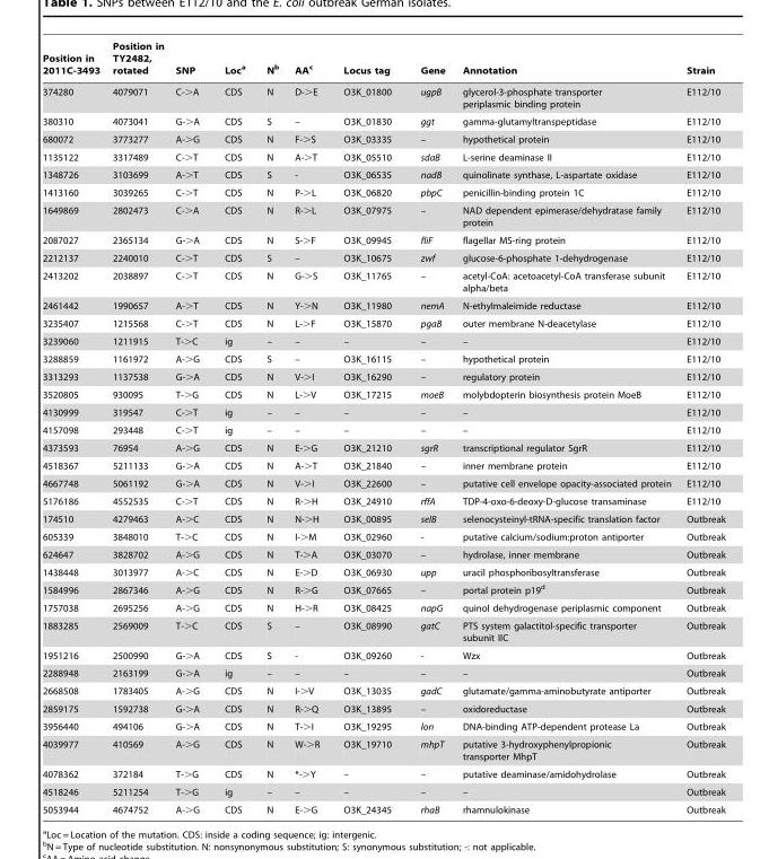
<table><thead><tr><td>Position in 2011C-3493</td><td>Position in TY2482, rotated</td><td>SNP</td><td>Loc<sup>a</sup></td><td>N<sup>b</sup></td><td>AA<sup>c</sup></td><td>Locus tag</td><td>Gene</td><td>Annotation</td><td>Strain</td></tr></thead><tbody><tr><td>374280</td><td>4079071</td><td>C-&gt;A</td><td>CDS</td><td>N</td><td>D-&gt;E</td><td>O3K_01800</td><td>ugpB</td><td>glycerol-3-phosphate transporter periplasmic binding protein</td><td>E112/10</td></tr><tr><td>380310</td><td>4073041</td><td>G-&gt;A</td><td>CDS</td><td>S</td><td>–</td><td>O3K_01830</td><td>ggt</td><td>gamma-glutamyltranspeptidase</td><td>E112/10</td></tr><tr><td>680072</td><td>3773277</td><td>A-&gt;G</td><td>CDS</td><td>N</td><td>F-&gt;S</td><td>O3K_03335</td><td>–</td><td>hypothetical protein</td><td>E112/10</td></tr><tr><td>1135122</td><td>3317489</td><td>C-&gt;T</td><td>CDS</td><td>N</td><td>A-&gt;T</td><td>O3K_05510</td><td>sdaB</td><td>L-serine deaminase II</td><td>E112/10</td></tr><tr><td>1348726</td><td>3103699</td><td>A-&gt;T</td><td>CDS</td><td>S</td><td>-</td><td>O3K_06535</td><td>nadB</td><td>quinolinate synthase, L-aspartate oxidase</td><td>E112/10</td></tr><tr><td>1413160</td><td>3039265</td><td>C-&gt;T</td><td>CDS</td><td>N</td><td>P-&gt;L</td><td>O3K_06820</td><td>pbpC</td><td>penicillin-binding protein 1C</td><td>E112/10</td></tr><tr><td>1649869</td><td>2802473</td><td>C-&gt;A</td><td>CDS</td><td>N</td><td>R-&gt;L</td><td>O3K_07975</td><td>–</td><td>NAD dependent epimerase/dehydratase family protein</td><td>E112/10</td></tr><tr><td>2087027</td><td>2365134</td><td>G-&gt;A</td><td>CDS</td><td>N</td><td>S-&gt;F</td><td>O3K_09945</td><td>fliF</td><td>flagellar MS-ring protein</td><td>E112/10</td></tr><tr><td>2212137</td><td>2240010</td><td>C-&gt;T</td><td>CDS</td><td>S</td><td>–</td><td>O3K_10675</td><td>zwf</td><td>glucose-6-phosphate 1-dehydrogenase</td><td>E112/10</td></tr><tr><td>2413202</td><td>2038897</td><td>C-&gt;T</td><td>CDS</td><td>N</td><td>G-&gt;S</td><td>O3K_11765</td><td>–</td><td>acetyl-CoA: acetoacetyl-CoA transferase subunit alpha/beta</td><td>E112/10</td></tr><tr><td>2461442</td><td>1990657</td><td>A-&gt;T</td><td>CDS</td><td>N</td><td>Y-&gt;N</td><td>O3K_11980</td><td>nemA</td><td>N-ethylmaleimide reductase</td><td>E112/10</td></tr><tr><td>3235407</td><td>1215568</td><td>C-&gt;T</td><td>CDS</td><td>N</td><td>L-&gt;F</td><td>O3K_15870</td><td>pgaB</td><td>outer membrane N-deacetylase</td><td>E112/10</td></tr><tr><td>3239060</td><td>1211915</td><td>T-&gt;C</td><td>ig</td><td>–</td><td>–</td><td>–</td><td>–</td><td>–</td><td>E112/10</td></tr><tr><td>3288859</td><td>1161972</td><td>A-&gt;G</td><td>CDS</td><td>S</td><td>–</td><td>O3K_16115</td><td>–</td><td>hypothetical protein</td><td>E112/10</td></tr><tr><td>3313293</td><td>1137538</td><td>G-&gt;A</td><td>CDS</td><td>N</td><td>V-&gt;I</td><td>O3K_16290</td><td>–</td><td>regulatory protein</td><td>E112/10</td></tr><tr><td>3520805</td><td>930095</td><td>T-&gt;G</td><td>CDS</td><td>N</td><td>L-&gt;V</td><td>O3K_17215</td><td>moeB</td><td>molybdopterin biosynthesis protein MoeB</td><td>E112/10</td></tr><tr><td>4130999</td><td>319547</td><td>C-&gt;T</td><td>ig</td><td>–</td><td>–</td><td>–</td><td>–</td><td>–</td><td>E112/10</td></tr><tr><td>4157098</td><td>293448</td><td>C-&gt;T</td><td>ig</td><td>–</td><td>–</td><td>–</td><td>–</td><td>–</td><td>E112/10</td></tr><tr><td>4373593</td><td>76954</td><td>A-&gt;G</td><td>CDS</td><td>N</td><td>E-&gt;G</td><td>O3K_21210</td><td>sgrR</td><td>transcriptional regulator SgrR</td><td>E112/10</td></tr><tr><td>4518367</td><td>5211133</td><td>G-&gt;A</td><td>CDS</td><td>N</td><td>A-&gt;T</td><td>O3K_21840</td><td>–</td><td>inner membrane protein</td><td>E112/10</td></tr><tr><td>4667748</td><td>5061192</td><td>G-&gt;A</td><td>CDS</td><td>N</td><td>V-&gt;I</td><td>O3K_22600</td><td>–</td><td>putative cell envelope opacity-associated protein</td><td>E112/10</td></tr><tr><td>5176186</td><td>4552535</td><td>C-&gt;T</td><td>CDS</td><td>N</td><td>R-&gt;H</td><td>O3K_24910</td><td>rffA</td><td>TDP-4-oxo-6-deoxy-D-glucose transaminase</td><td>E112/10</td></tr><tr><td>174510</td><td>4279463</td><td>A-&gt;C</td><td>CDS</td><td>N</td><td>N-&gt;H</td><td>O3K_00895</td><td>selB</td><td>selenocysteinyl-tRNA-specific translation factor</td><td>Outbreak</td></tr><tr><td>605339</td><td>3848010</td><td>T-&gt;C</td><td>CDS</td><td>N</td><td>I-&gt;M</td><td>O3K_02960</td><td>-</td><td>putative calcium/sodium:proton antiporter</td><td>Outbreak</td></tr><tr><td>624647</td><td>3828702</td><td>A-&gt;G</td><td>CDS</td><td>N</td><td>T-&gt;A</td><td>O3K_03070</td><td>–</td><td>hydrolase, inner membrane</td><td>Outbreak</td></tr><tr><td>1438448</td><td>3013977</td><td>A-&gt;C</td><td>CDS</td><td>N</td><td>E-&gt;D</td><td>O3K_06930</td><td>upp</td><td>uracil phosphoribosyltransferase</td><td>Outbreak</td></tr><tr><td>1584996</td><td>2867346</td><td>A-&gt;G</td><td>CDS</td><td>N</td><td>R-&gt;G</td><td>O3K_07665</td><td>–</td><td>portal protein p19<sup>d</sup></td><td>Outbreak</td></tr><tr><td>1757038</td><td>2695256</td><td>A-&gt;G</td><td>CDS</td><td>N</td><td>H-&gt;R</td><td>O3K_08425</td><td>napG</td><td>quinol dehydrogenase periplasmic component</td><td>Outbreak</td></tr><tr><td>1883285</td><td>2569009</td><td>T-&gt;C</td><td>CDS</td><td>S</td><td>–</td><td>O3K_08990</td><td>gatC</td><td>PTS system galactitol-specific transporter subunit IIC</td><td>Outbreak</td></tr><tr><td>1951216</td><td>2500990</td><td>G-&gt;A</td><td>CDS</td><td>S</td><td>-</td><td>O3K_09260</td><td>-</td><td>Wzx</td><td>Outbreak</td></tr><tr><td>2288948</td><td>2163199</td><td>G-&gt;A</td><td>ig</td><td>–</td><td>–</td><td>–</td><td>–</td><td>–</td><td>Outbreak</td></tr><tr><td>2668508</td><td>1783405</td><td>A-&gt;G</td><td>CDS</td><td>N</td><td>I-&gt;V</td><td>O3K_13035</td><td>gadC</td><td>glutamate/gamma-aminobutyrate antiporter</td><td>Outbreak</td></tr><tr><td>2859175</td><td>1592738</td><td>G-&gt;A</td><td>CDS</td><td>N</td><td>R-&gt;Q</td><td>O3K_13895</td><td>–</td><td>oxidoreductase</td><td>Outbreak</td></tr><tr><td>3956440</td><td>494106</td><td>G-&gt;A</td><td>CDS</td><td>N</td><td>T-&gt;I</td><td>O3K_19295</td><td>lon</td><td>DNA-binding ATP-dependent protease La</td><td>Outbreak</td></tr><tr><td>4039977</td><td>410569</td><td>A-&gt;G</td><td>CDS</td><td>N</td><td>W-&gt;R</td><td>O3K_19710</td><td>mhpT</td><td>putative 3-hydroxyphenylpropionic transporter MhpT</td><td>Outbreak</td></tr><tr><td>4078362</td><td>372184</td><td>T-&gt;G</td><td>CDS</td><td>N</td><td>*-&gt;Y</td><td>–</td><td>–</td><td>putative deaminase/amidohydrolase</td><td>Outbreak</td></tr><tr><td>4518246</td><td>5211254</td><td>T-&gt;G</td><td>ig</td><td>–</td><td>–</td><td>–</td><td>–</td><td>–</td><td>Outbreak</td></tr><tr><td>5053944</td><td>4674752</td><td>A-&gt;G</td><td>CDS</td><td>N</td><td>E-&gt;G</td><td>O3K_24345</td><td>rhaB</td><td>rhamnulokinase</td><td>Outbreak</td></tr></tbody></table>